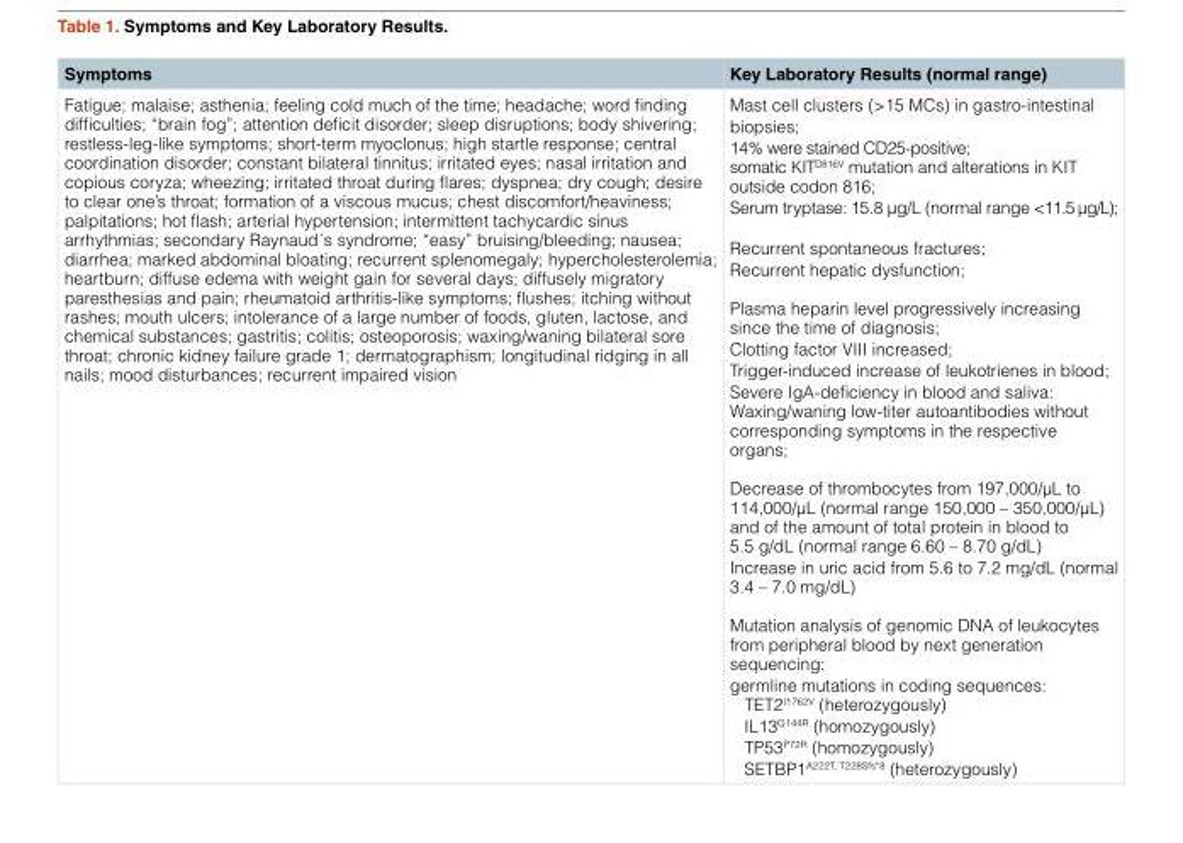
<table><thead><tr><td>Symptoms</td><td>Key Laboratory Results (normal range)</td></tr></thead><tbody><tr><td>Fatigue; malaise; asthenia; feeling cold much of the time; headache; word finding difficulties; “brain fog”; attention deficit disorder; sleep disruptions; body shivering; restless-leg-like symptoms; short-term myoclonus; high startle response; central coordination disorder; constant bilateral tinnitus; irritated eyes; nasal irritation and copious coryza; wheezing; irritated throat during flares; dyspnea; dry cough; desire to clear one’s throat; formation of a viscous mucus; chest discomfort/heaviness; palpitations; hot flash; arterial hypertension; intermittent tachycardic sinus arrhythmias; secondary Raynaud´s syndrome; “easy” bruising/bleeding; nausea; diarrhea; marked abdominal bloating; recurrent splenomegaly; hypercholesterolemia; heartburn; diffuse edema with weight gain for several days; diffusely migratory paresthesias and pain; rheumatoid arthritis-like symptoms; flushes; itching without rashes; mouth ulcers; intolerance of a large number of foods, gluten, lactose, and chemical substances; gastritis; colitis; osteoporosis; waxing/waning bilateral sore throat; chronic kidney failure grade 1; dermatographism; longitudinal ridging in all nails; mood disturbances; recurrent impaired vision</td><td>Mast cell clusters (&gt;15 MCs) in gastro-intestinal biopsies; 14% were stained CD25-positive; somatic KIT<sup>D816V</sup> mutation and alterations in KIT outside codon 816; Serum tryptase: 15.8 µg/L (normal range &lt;11.5 µg/L); Recurrent spontaneous fractures; Recurrent hepatic dysfunction; Plasma heparin level progressively increasing since the time of diagnosis; Clotting factor VIII increased; Trigger-induced increase of leukotrienes in blood; Severe IgA-deficiency in blood and saliva: Waxing/waning low-titer autoantibodies without corresponding symptoms in the respective organs; Decrease of thrombocytes from 197,000/µL to 114,000/µL (normal range 150,000 – 350,000/µL) and of the amount of total protein in blood to 5.5 g/dL (normal range 6.60 – 8.70 g/dL) Increase in uric acid from 5.6 to 7.2 mg/dL (normal 3.4 – 7.0 mg/dL) Mutation analysis of genomic DNA of leukocytes from peripheral blood by next generation sequencing: germline mutations in coding sequences: TET2<sup>I1762V</sup> (heterozygously) IL13<sup>Q144R</sup> (homozygously) TP53<sup>P72R</sup> (homozygously) SETBP1<sup>A222T, T228Sfs*8</sup> (heterozygously)</td></tr></tbody></table>